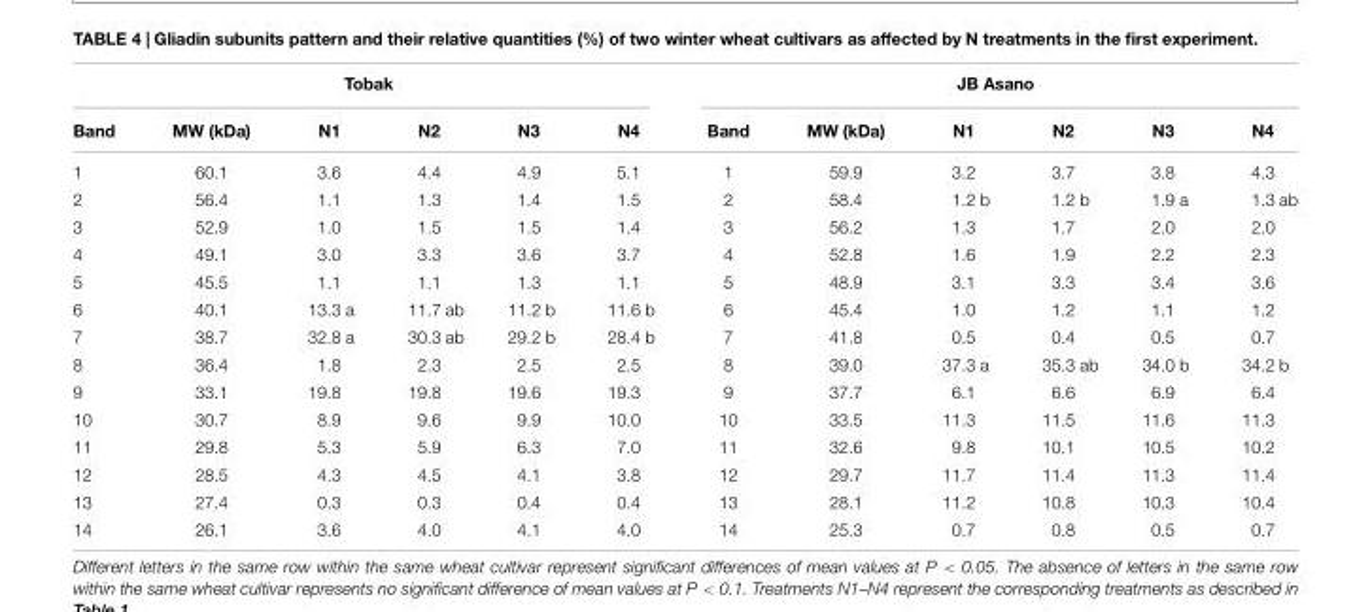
<table><thead><tr><td colspan="6">Tobak</td><td colspan="6">JB Asano</td></tr><tr><td>Band</td><td>MW (kDa)</td><td>N1</td><td>N2</td><td>N3</td><td>N4</td><td>Band</td><td>MW (kDa)</td><td>N1</td><td>N2</td><td>N3</td><td>N4</td></tr></thead><tbody><tr><td>1</td><td>60.1</td><td>3.6</td><td>4.4</td><td>4.9</td><td>5.1</td><td>1</td><td>59.9</td><td>3.2</td><td>3.7</td><td>3.8</td><td>4.3</td></tr><tr><td>2</td><td>56.4</td><td>1.1</td><td>1.3</td><td>1.4</td><td>1.5</td><td>2</td><td>58.4</td><td>1.2 b</td><td>1.2 b</td><td>1.9 a</td><td>1.3 ab</td></tr><tr><td>3</td><td>52.9</td><td>1.0</td><td>1.5</td><td>1.5</td><td>1.4</td><td>3</td><td>56.2</td><td>1.3</td><td>1.7</td><td>2.0</td><td>2.0</td></tr><tr><td>4</td><td>49.1</td><td>3.0</td><td>3.3</td><td>3.6</td><td>3.7</td><td>4</td><td>52.8</td><td>1.6</td><td>1.9</td><td>2.2</td><td>2.3</td></tr><tr><td>5</td><td>45.5</td><td>1.1</td><td>1.1</td><td>1.3</td><td>1.1</td><td>5</td><td>48.9</td><td>3.1</td><td>3.3</td><td>3.4</td><td>3.6</td></tr><tr><td>6</td><td>40.1</td><td>13.3 a</td><td>11.7 ab</td><td>11.2 b</td><td>11.6 b</td><td>6</td><td>45.4</td><td>1.0</td><td>1.2</td><td>1.1</td><td>1.2</td></tr><tr><td>7</td><td>38.7</td><td>32.8 a</td><td>30.3 ab</td><td>29.2 b</td><td>28.4 b</td><td>7</td><td>41.8</td><td>0.5</td><td>0.4</td><td>0.5</td><td>0.7</td></tr><tr><td>8</td><td>36.4</td><td>1.8</td><td>2.3</td><td>2.5</td><td>2.5</td><td>8</td><td>39.0</td><td>37.3 a</td><td>35.3 ab</td><td>34.0 b</td><td>34.2 b</td></tr><tr><td>9</td><td>33.1</td><td>19.8</td><td>19.8</td><td>19.6</td><td>19.3</td><td>9</td><td>37.7</td><td>6.1</td><td>6.6</td><td>6.9</td><td>6.4</td></tr><tr><td>10</td><td>30.7</td><td>8.9</td><td>9.6</td><td>9.9</td><td>10.0</td><td>10</td><td>33.5</td><td>11.3</td><td>11.5</td><td>11.6</td><td>11.3</td></tr><tr><td>11</td><td>29.8</td><td>5.3</td><td>5.9</td><td>6.3</td><td>7.0</td><td>11</td><td>32.6</td><td>9.8</td><td>10.1</td><td>10.5</td><td>10.2</td></tr><tr><td>12</td><td>28.5</td><td>4.3</td><td>4.5</td><td>4.1</td><td>3.8</td><td>12</td><td>29.7</td><td>11.7</td><td>11.4</td><td>11.3</td><td>11.4</td></tr><tr><td>13</td><td>27.4</td><td>0.3</td><td>0.3</td><td>0.4</td><td>0.4</td><td>13</td><td>28.1</td><td>11.2</td><td>10.8</td><td>10.3</td><td>10.4</td></tr><tr><td>14</td><td>26.1</td><td>3.6</td><td>4.0</td><td>4.1</td><td>4.0</td><td>14</td><td>25.3</td><td>0.7</td><td>0.8</td><td>0.5</td><td>0.7</td></tr></tbody></table>